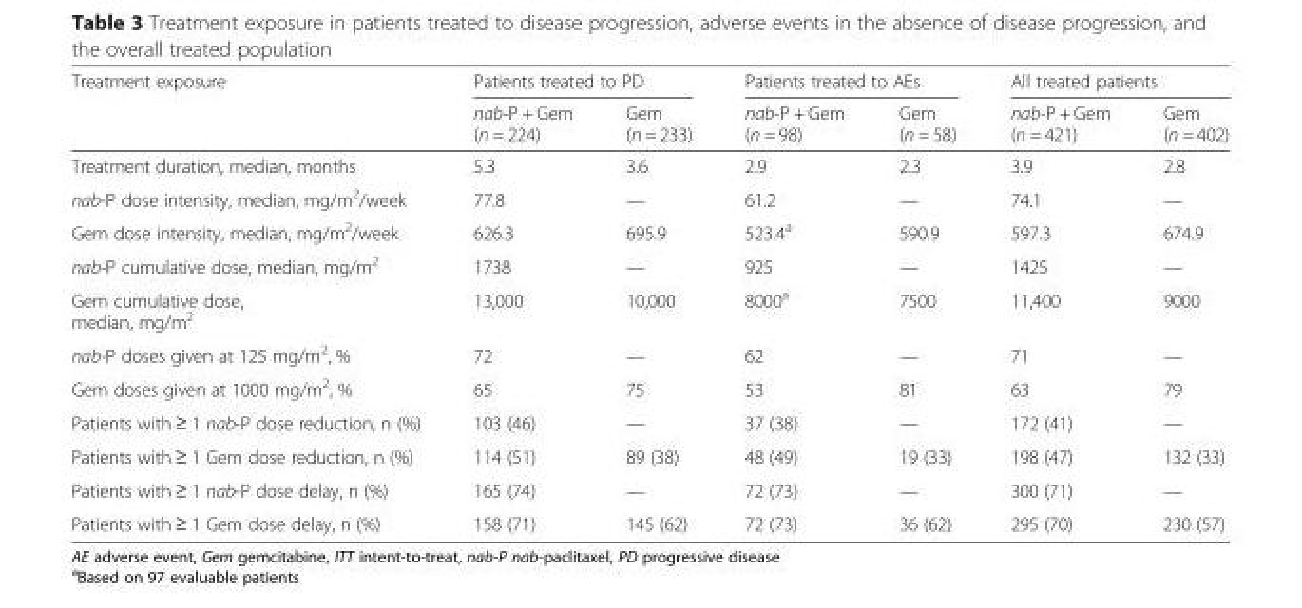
<table><thead><tr><td rowspan="2">Treatment exposure</td><td colspan="2">Patients treated to PD</td><td colspan="2">Patients treated to AEs</td><td colspan="2">All treated patients</td></tr><tr><td>nab-P + Gem (n = 224)</td><td>Gem (n = 233)</td><td>nab-P + Gem (n = 98)</td><td>Gem (n = 58)</td><td>nab-P + Gem (n = 421)</td><td>Gem (n = 402)</td></tr></thead><tbody><tr><td>Treatment duration, median, months</td><td>5.3</td><td>3.6</td><td>2.9</td><td>2.3</td><td>3.9</td><td>2.8</td></tr><tr><td>nab-P dose intensity, median, mg/m<sup>2</sup>/week</td><td>77.8</td><td>—</td><td>61.2</td><td>—</td><td>74.1</td><td>—</td></tr><tr><td>Gem dose intensity, median, mg/m<sup>2</sup>/week</td><td>626.3</td><td>695.9</td><td>523.4<sup>a</sup></td><td>590.9</td><td>597.3</td><td>674.9</td></tr><tr><td>nab-P cumulative dose, median, mg/m<sup>2</sup></td><td>1738</td><td>—</td><td>925</td><td>—</td><td>1425</td><td>—</td></tr><tr><td>Gem cumulative dose, median, mg/m<sup>2</sup></td><td>13,000</td><td>10,000</td><td>8000<sup>a</sup></td><td>7500</td><td>11,400</td><td>9000</td></tr><tr><td>nab-P doses given at 125 mg/m<sup>2</sup>, %</td><td>72</td><td>—</td><td>62</td><td>—</td><td>71</td><td>—</td></tr><tr><td>Gem doses given at 1000 mg/m<sup>2</sup>, %</td><td>65</td><td>75</td><td>53</td><td>81</td><td>63</td><td>79</td></tr><tr><td>Patients with ≥ 1 nab-P dose reduction, n (%)</td><td>103 (46)</td><td>—</td><td>37 (38)</td><td>—</td><td>172 (41)</td><td>—</td></tr><tr><td>Patients with ≥ 1 Gem dose reduction, n (%)</td><td>114 (51)</td><td>89 (38)</td><td>48 (49)</td><td>19 (33)</td><td>198 (47)</td><td>132 (33)</td></tr><tr><td>Patients with ≥ 1 nab-P dose delay, n (%)</td><td>165 (74)</td><td>—</td><td>72 (73)</td><td>—</td><td>300 (71)</td><td>—</td></tr><tr><td>Patients with ≥ 1 Gem dose delay, n (%)</td><td>158 (71)</td><td>145 (62)</td><td>72 (73)</td><td>36 (62)</td><td>295 (70)</td><td>230 (57)</td></tr></tbody></table>